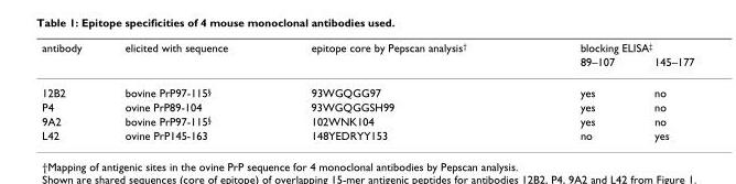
<table><thead><tr><td rowspan="2">antibody</td><td rowspan="2">elicited with sequence</td><td rowspan="2">epitope core by Pepscan analysis†</td><td colspan="2">blocking ELISA‡</td></tr><tr><td>89–107</td><td>145–177</td></tr></thead><tbody><tr><td>12B2</td><td>bovine PrP97-115§</td><td>93WGQGG97</td><td>yes</td><td>no</td></tr><tr><td>P4</td><td>ovine PrP89-104</td><td>93WGQGGSH99</td><td>yes</td><td>no</td></tr><tr><td>9A2</td><td>bovine PrP97-115§</td><td>102WNK104</td><td>yes</td><td>no</td></tr><tr><td>L42</td><td>ovine PrP145-163</td><td>148YEDRYY153</td><td>no</td><td>yes</td></tr></tbody></table>